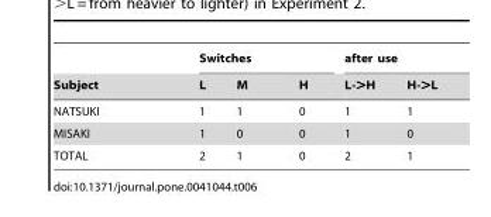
<table><thead><tr><td rowspan="2">Subject</td><td colspan="3">Switches</td><td colspan="2">after use</td></tr><tr><td>L</td><td>M</td><td>H</td><td>L-&gt;H</td><td>H-&gt;L</td></tr></thead><tbody><tr><td>NATSUKI</td><td>1</td><td>1</td><td>0</td><td>1</td><td>1</td></tr><tr><td>MISAKI</td><td>1</td><td>0</td><td>0</td><td>1</td><td>0</td></tr><tr><td>TOTAL</td><td>2</td><td>1</td><td>0</td><td>2</td><td>1</td></tr></tbody></table>